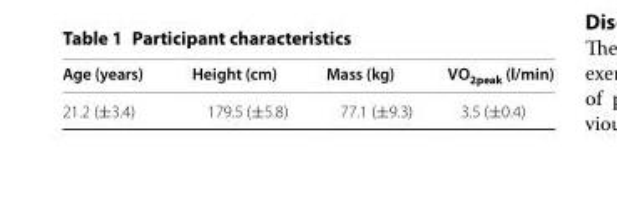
<table><thead><tr><td>Age (years)</td><td>Height (cm)</td><td>Mass (kg)</td><td>VO<sub>2peak</sub> (l/min)</td></tr></thead><tbody><tr><td>21.2 (±3.4)</td><td>179.5 (±5.8)</td><td>77.1 (±9.3)</td><td>3.5 (±0.4)</td></tr></tbody></table>